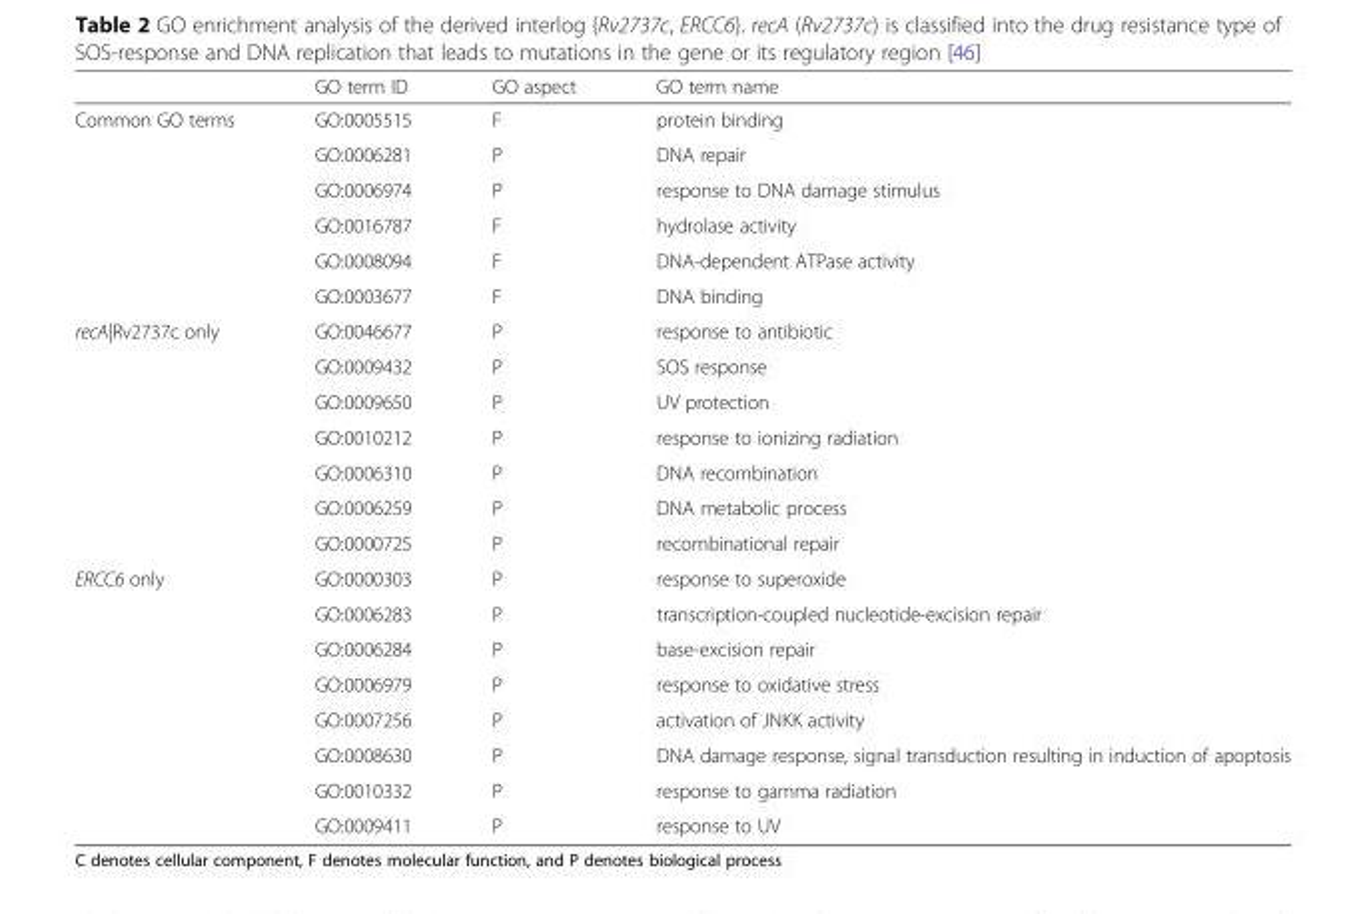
<table><thead><tr><td></td><td>GO term ID</td><td>GO aspect</td><td>GO term name</td></tr></thead><tbody><tr><td rowspan="6">Common GO terms</td><td>GO:0005515</td><td>F</td><td>protein binding</td></tr><tr><td>GO:0006281</td><td>P</td><td>DNA repair</td></tr><tr><td>GO:0006974</td><td>P</td><td>response to DNA damage stimulus</td></tr><tr><td>GO:0016787</td><td>F</td><td>hydrolase activity</td></tr><tr><td>GO:0008094</td><td>F</td><td>DNA-dependent ATPase activity</td></tr><tr><td>GO:0003677</td><td>F</td><td>DNA binding</td></tr><tr><td rowspan="7">recA|Rv2737c only</td><td>GO:0046677</td><td>P</td><td>response to antibiotic</td></tr><tr><td>GO:0009432</td><td>P</td><td>SOS response</td></tr><tr><td>GO:0009650</td><td>P</td><td>UV protection</td></tr><tr><td>GO:0010212</td><td>P</td><td>response to ionizing radiation</td></tr><tr><td>GO:0006310</td><td>P</td><td>DNA recombination</td></tr><tr><td>GO:0006259</td><td>P</td><td>DNA metabolic process</td></tr><tr><td>GO:0000725</td><td>P</td><td>recombinational repair</td></tr><tr><td rowspan="8">ERCC6 only</td><td>GO:0000303</td><td>P</td><td>response to superoxide</td></tr><tr><td>GO:0006283</td><td>P</td><td>transcription-coupled nucleotide-excision repair</td></tr><tr><td>GO:0006284</td><td>P</td><td>base-excision repair</td></tr><tr><td>GO:0006979</td><td>P</td><td>response to oxidative stress</td></tr><tr><td>GO:0007256</td><td>P</td><td>activation of JNKK activity</td></tr><tr><td>GO:0008630</td><td>P</td><td>DNA damage response, signal transduction resulting in induction of apoptosis</td></tr><tr><td>GO:0010332</td><td>P</td><td>response to gamma radiation</td></tr><tr><td>GO:0009411</td><td>P</td><td>response to UV</td></tr></tbody></table>